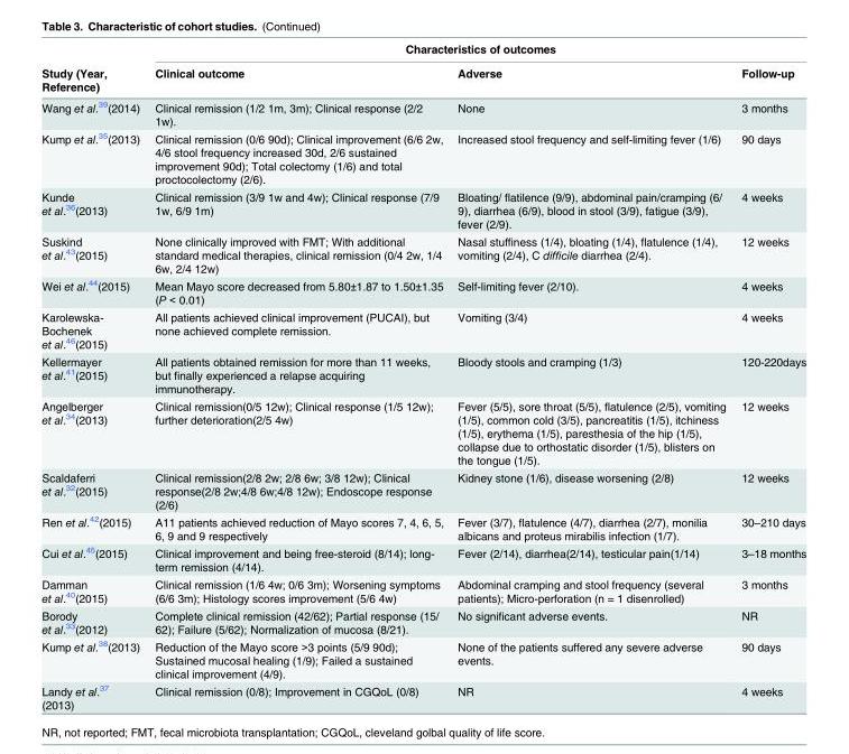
<table><thead><tr><td rowspan="2">Study (Year, Reference)</td><td colspan="3">Characteristics of outcomes</td></tr><tr><td>Clinical outcome</td><td>Adverse</td><td>Follow-up</td></tr></thead><tbody><tr><td>Wang et al.<sup>39</sup>(2014)</td><td>Clinical remission (1/2 1m, 3m); Clinical response (2/2 1w).</td><td>None</td><td>3 months</td></tr><tr><td>Kump et al.<sup>35</sup>(2013)</td><td>Clinical remission (0/6 90d); Clinical improvement (6/6 2w, 4/6 stool frequency increased 30d, 2/6 sustained improvement 90d); Total colectomy (1/6) and total proctocolectomy (2/6).</td><td>Increased stool frequency and self-limiting fever (1/6)</td><td>90 days</td></tr><tr><td>Kunde et al.<sup>36</sup>(2013)</td><td>Clinical remission (3/9 1w and 4w); Clinical response (7/9 1w, 6/9 1m)</td><td>Bloating/ flatilence (9/9), abdominal pain/cramping (6/ 9), diarrhea (6/9), blood in stool (3/9), fatigue (3/9), fever (2/9).</td><td>4 weeks</td></tr><tr><td>Suskind et al.<sup>43</sup>(2015)</td><td>None clinically improved with FMT; With additional standard medical therapies, clinical remission (0/4 2w, 1/4 6w, 2/4 12w)</td><td>Nasal stuffiness (1/4), bloating (1/4), flatulence (1/4), vomiting (2/4), C difficile diarrhea (2/4).</td><td>12 weeks</td></tr><tr><td>Wei et al.<sup>44</sup>(2015)</td><td>Mean Mayo score decreased from 5.80±1.87 to 1.50±1.35 (P &lt; 0.01)</td><td>Self-limiting fever (2/10).</td><td>4 weeks</td></tr><tr><td>Karolewska- Bochenek et al.<sup>46</sup>(2015)</td><td>All patients achieved clinical improvement (PUCAI), but none achieved complete remission.</td><td>Vomiting (3/4)</td><td>4 weeks</td></tr><tr><td>Kellermayer et al.<sup>41</sup>(2015)</td><td>All patients obtained remission for more than 11 weeks, but finally experienced a relapse acquiring immunotherapy.</td><td>Bloody stools and cramping (1/3)</td><td>120-220days</td></tr><tr><td>Angelberger et al.<sup>34</sup>(2013)</td><td>Clinical remission(0/5 12w); Clinical response (1/5 12w); further deterioration(2/5 4w)</td><td>Fever (5/5), sore throat (5/5), flatulence (2/5), vomiting (1/5), common cold (3/5), pancreatitis (1/5), itchiness (1/5), erythema (1/5), paresthesia of the hip (1/5), collapse due to orthostatic disorder (1/5), blisters on the tongue (1/5).</td><td>12 weeks</td></tr><tr><td>Scaldaferri et al.<sup>32</sup>(2015)</td><td>Clinical remission(2/8 2w; 2/8 6w; 3/8 12w); Clinical response(2/8 2w;4/8 6w;4/8 12w); Endoscope response (2/6)</td><td>Kidney stone (1/6), disease worsening (2/8)</td><td>12 weeks</td></tr><tr><td>Ren et al.<sup>42</sup>(2015)</td><td>A11 patients achieved reduction of Mayo scores 7, 4, 6, 5, 6, 9 and 9 respectively</td><td>Fever (3/7), flatulence (4/7), diarrhea (2/7), monilia albicans and proteus mirabilis infection (1/7).</td><td>30–210 days</td></tr><tr><td>Cui et al.<sup>45</sup>(2015)</td><td>Clinical improvement and being free-steroid (8/14); long- term remission (4/14).</td><td>Fever (2/14), diarrhea(2/14), testicular pain(1/14)</td><td>3–18 months</td></tr><tr><td>Damman et al.<sup>40</sup>(2015)</td><td>Clinical remission (1/6 4w; 0/6 3m); Worsening symptoms (6/6 3m); Histology scores improvement (5/6 4w)</td><td>Abdominal cramping and stool frequency (several patients); Micro-perforation (n = 1 disenrolled)</td><td>3 months</td></tr><tr><td>Borody et al.<sup>33</sup>(2012)</td><td>Complete clinical remission (42/62); Partial response (15/ 62); Failure (5/62); Normalization of mucosa (8/21).</td><td>No significant adverse events.</td><td>NR</td></tr><tr><td>Kump et al.<sup>38</sup>(2013)</td><td>Reduction of the Mayo score &gt;3 points (5/9 90d); Sustained mucosal healing (1/9); Failed a sustained clinical improvement (4/9).</td><td>None of the patients suffered any severe adverse events.</td><td>90 days</td></tr><tr><td>Landy et al.<sup>37</sup> (2013)</td><td>Clinical remission (0/8); Improvement in CGQoL (0/8)</td><td>NR</td><td>4 weeks</td></tr></tbody></table>